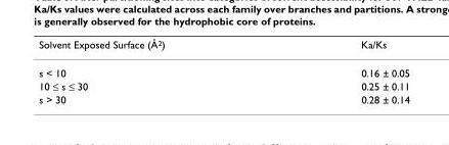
<table><thead><tr><td>Solvent Exposed Surface (Å2)</td><td>Ka/Ks</td></tr></thead><tbody><tr><td>s &lt; 10</td><td>0.16 ± 0.05</td></tr><tr><td>10 ≤ s ≤ 30</td><td>0.25 ± 0.11</td></tr><tr><td>s &gt; 30</td><td>0.28 ± 0.14</td></tr></tbody></table>